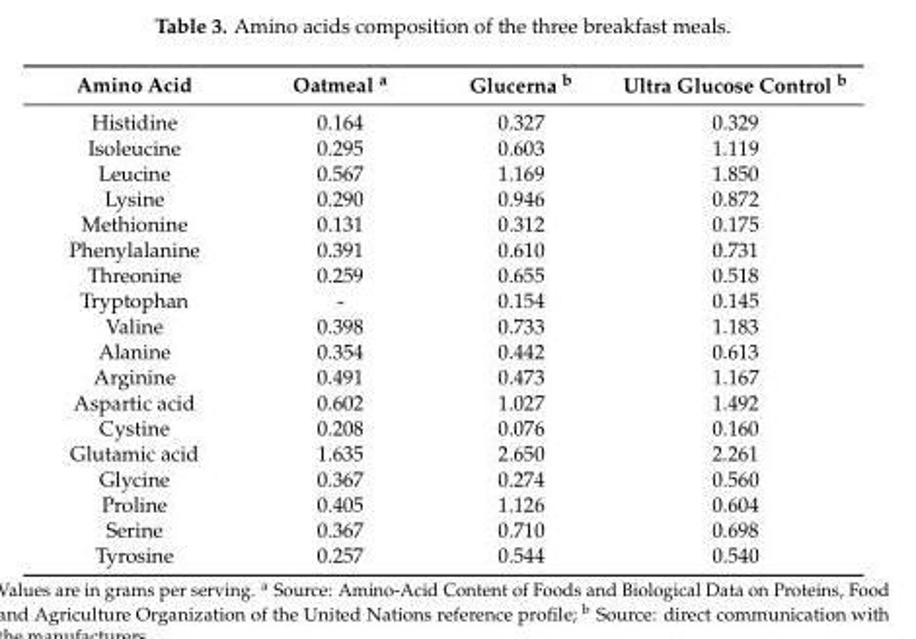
<table><thead><tr><td>Amino Acid</td><td>Oatmeal <sup>a</sup></td><td>Glucerna <sup>b</sup></td><td>Ultra Glucose Control <sup>b</sup></td></tr></thead><tbody><tr><td>Histidine</td><td>0.164</td><td>0.327</td><td>0.329</td></tr><tr><td>Isoleucine</td><td>0.295</td><td>0.603</td><td>1.119</td></tr><tr><td>Leucine</td><td>0.567</td><td>1.169</td><td>1.850</td></tr><tr><td>Lysine</td><td>0.290</td><td>0.946</td><td>0.872</td></tr><tr><td>Methionine</td><td>0.131</td><td>0.312</td><td>0.175</td></tr><tr><td>Phenylalanine</td><td>0.391</td><td>0.610</td><td>0.731</td></tr><tr><td>Threonine</td><td>0.259</td><td>0.655</td><td>0.518</td></tr><tr><td>Tryptophan</td><td>-</td><td>0.154</td><td>0.145</td></tr><tr><td>Valine</td><td>0.398</td><td>0.733</td><td>1.183</td></tr><tr><td>Alanine</td><td>0.354</td><td>0.442</td><td>0.613</td></tr><tr><td>Arginine</td><td>0.491</td><td>0.473</td><td>1.167</td></tr><tr><td>Aspartic acid</td><td>0.602</td><td>1.027</td><td>1.492</td></tr><tr><td>Cystine</td><td>0.208</td><td>0.076</td><td>0.160</td></tr><tr><td>Glutamic acid</td><td>1.635</td><td>2.650</td><td>2.261</td></tr><tr><td>Glycine</td><td>0.367</td><td>0.274</td><td>0.560</td></tr><tr><td>Proline</td><td>0.405</td><td>1.126</td><td>0.604</td></tr><tr><td>Serine</td><td>0.367</td><td>0.710</td><td>0.698</td></tr><tr><td>Tyrosine</td><td>0.257</td><td>0.544</td><td>0.540</td></tr></tbody></table>